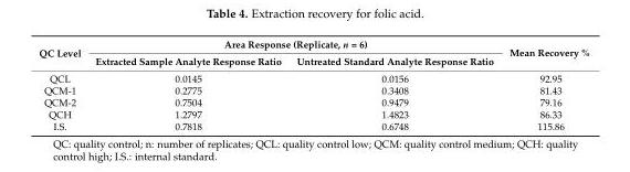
<table><thead><tr><td rowspan="2">QC Level</td><td colspan="2">Area Response (Replicate, n = 6)</td><td rowspan="2">Mean Recovery %</td></tr><tr><td>Extracted Sample Analyte Response Ratio</td><td>Untreated Standard Analyte Response Ratio</td></tr></thead><tbody><tr><td>QCL</td><td>0.0145</td><td>0.0156</td><td>92.95</td></tr><tr><td>QCM-1</td><td>0.2775</td><td>0.3408</td><td>81.43</td></tr><tr><td>QCM-2</td><td>0.7504</td><td>0.9479</td><td>79.16</td></tr><tr><td>QCH</td><td>1.2797</td><td>1.4823</td><td>86.33</td></tr><tr><td>I.S.</td><td>0.7818</td><td>0.6748</td><td>115.86</td></tr></tbody></table>